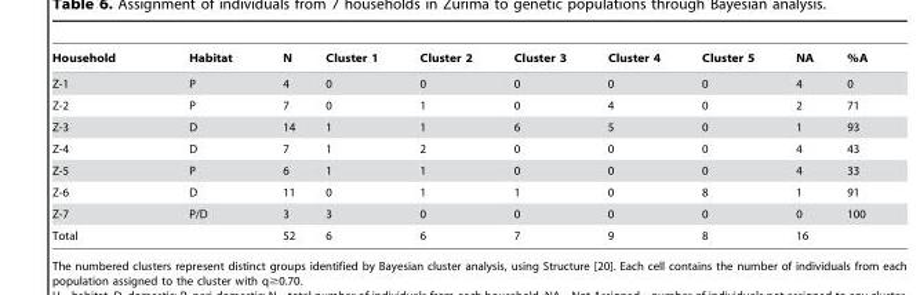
<table><thead><tr><td>Household</td><td>Habitat</td><td>N</td><td>Cluster 1</td><td>Cluster 2</td><td>Cluster 3</td><td>Cluster 4</td><td>Cluster 5</td><td>NA</td><td>%A</td></tr></thead><tbody><tr><td>Z-1</td><td>P</td><td>4</td><td>0</td><td>0</td><td>0</td><td>0</td><td>0</td><td>4</td><td>0</td></tr><tr><td>Z-2</td><td>P</td><td>7</td><td>0</td><td>1</td><td>0</td><td>4</td><td>0</td><td>2</td><td>71</td></tr><tr><td>Z-3</td><td>D</td><td>14</td><td>1</td><td>1</td><td>6</td><td>5</td><td>0</td><td>1</td><td>93</td></tr><tr><td>Z-4</td><td>D</td><td>7</td><td>1</td><td>2</td><td>0</td><td>0</td><td>0</td><td>4</td><td>43</td></tr><tr><td>Z-5</td><td>P</td><td>6</td><td>1</td><td>1</td><td>0</td><td>0</td><td>0</td><td>4</td><td>33</td></tr><tr><td>Z-6</td><td>D</td><td>11</td><td>0</td><td>1</td><td>1</td><td>0</td><td>8</td><td>1</td><td>91</td></tr><tr><td>Z-7</td><td>P/D</td><td>3</td><td>3</td><td>0</td><td>0</td><td>0</td><td>0</td><td>0</td><td>100</td></tr><tr><td>Total</td><td></td><td>52</td><td>6</td><td>6</td><td>7</td><td>9</td><td>8</td><td>16</td><td></td></tr></tbody></table>